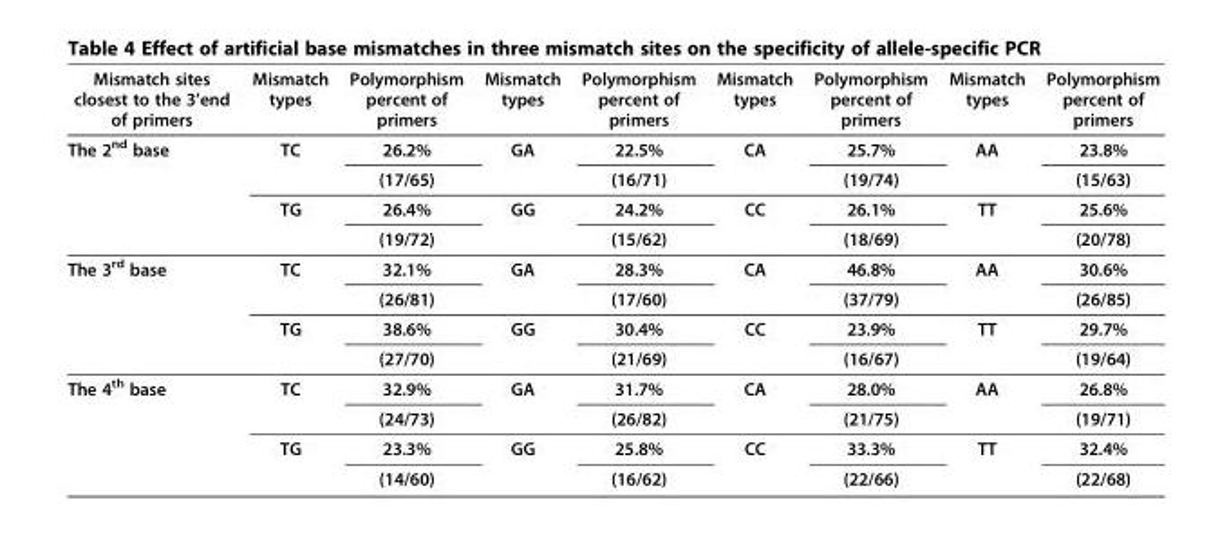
<table><thead><tr><td>Mismatch sites closest to the 3’end of primers</td><td>Mismatch types</td><td>Polymorphism percent of primers</td><td>Mismatch types</td><td>Polymorphism percent of primers</td><td>Mismatch types</td><td>Polymorphism percent of primers</td><td>Mismatch types</td><td>Polymorphism percent of primers</td></tr></thead><tbody><tr><td rowspan="4">The 2<sup>nd</sup> base</td><td rowspan="2">TC</td><td>26.2%</td><td rowspan="2">GA</td><td>22.5%</td><td rowspan="2">CA</td><td>25.7%</td><td rowspan="2">AA</td><td>23.8%</td></tr><tr><td>(17/65)</td><td>(16/71)</td><td>(19/74)</td><td>(15/63)</td></tr><tr><td rowspan="2">TG</td><td>26.4%</td><td rowspan="2">GG</td><td>24.2%</td><td rowspan="2">CC</td><td>26.1%</td><td rowspan="2">TT</td><td>25.6%</td></tr><tr><td>(19/72)</td><td>(15/62)</td><td>(18/69)</td><td>(20/78)</td></tr><tr><td rowspan="4">The 3<sup>rd</sup> base</td><td rowspan="2">TC</td><td>32.1%</td><td rowspan="2">GA</td><td>28.3%</td><td rowspan="2">CA</td><td>46.8%</td><td rowspan="2">AA</td><td>30.6%</td></tr><tr><td>(26/81)</td><td>(17/60)</td><td>(37/79)</td><td>(26/85)</td></tr><tr><td rowspan="2">TG</td><td>38.6%</td><td rowspan="2">GG</td><td>30.4%</td><td rowspan="2">CC</td><td>23.9%</td><td rowspan="2">TT</td><td>29.7%</td></tr><tr><td>(27/70)</td><td>(21/69)</td><td>(16/67)</td><td>(19/64)</td></tr><tr><td rowspan="4">The 4<sup>th</sup> base</td><td rowspan="2">TC</td><td>32.9%</td><td rowspan="2">GA</td><td>31.7%</td><td rowspan="2">CA</td><td>28.0%</td><td rowspan="2">AA</td><td>26.8%</td></tr><tr><td>(24/73)</td><td>(26/82)</td><td>(21/75)</td><td>(19/71)</td></tr><tr><td rowspan="2">TG</td><td>23.3%</td><td rowspan="2">GG</td><td>25.8%</td><td rowspan="2">CC</td><td>33.3%</td><td rowspan="2">TT</td><td>32.4%</td></tr><tr><td>(14/60)</td><td>(16/62)</td><td>(22/66)</td><td>(22/68)</td></tr></tbody></table>